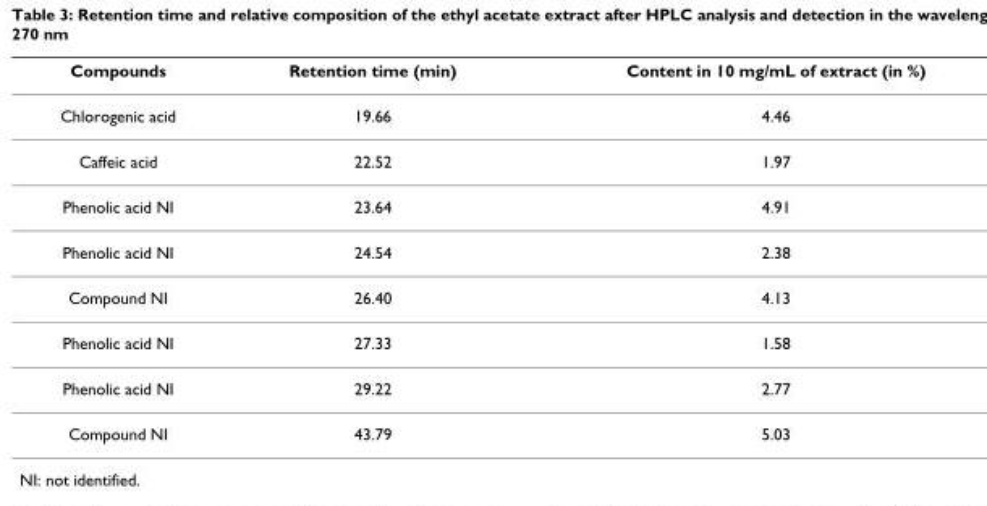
<table><thead><tr><td>Compounds</td><td>Retention time (min)</td><td>Content in 10 mg/mL of extract (in %)</td></tr></thead><tbody><tr><td>Chlorogenic acid</td><td>19.66</td><td>4.46</td></tr><tr><td>Caffeic acid</td><td>22.52</td><td>1.97</td></tr><tr><td>Phenolic acid NI</td><td>23.64</td><td>4.91</td></tr><tr><td>Phenolic acid NI</td><td>24.54</td><td>2.38</td></tr><tr><td>Compound NI</td><td>26.40</td><td>4.13</td></tr><tr><td>Phenolic acid NI</td><td>27.33</td><td>1.58</td></tr><tr><td>Phenolic acid NI</td><td>29.22</td><td>2.77</td></tr><tr><td>Compound NI</td><td>43.79</td><td>5.03</td></tr></tbody></table>